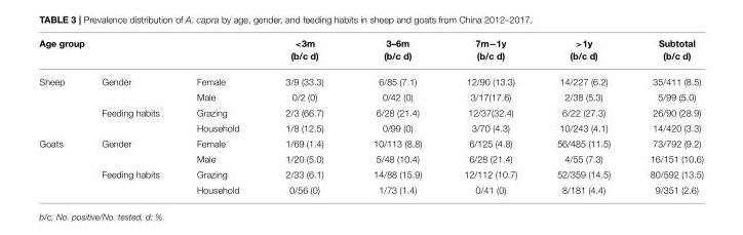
<table><thead><tr><td colspan="3">Age group</td><td rowspan="2">&lt;3m (b/c d) 3/9 (33.3)</td><td rowspan="2">3–6m (b/c d) 6/85 (7.1)</td><td rowspan="2">7m−1y (b/c d) 12/90 (13.3)</td><td rowspan="2">&gt;1y (b/c d) 14/227 (6.2)</td><td rowspan="2">Subtotal (b/c d) 35/411 (8.5)</td></tr><tr><td>Sheep</td><td>Gender</td><td>Female</td></tr></thead><tbody><tr><td></td><td></td><td>Male</td><td>0/2 (0)</td><td>0/42 (0)</td><td>3/17(17.6)</td><td>2/38 (5.3)</td><td>5/99 (5.0)</td></tr><tr><td></td><td>Feeding habits</td><td>Grazing</td><td>2/3 (66.7)</td><td>6/28 (21.4)</td><td>12/37(32.4)</td><td>6/22 (27.3)</td><td>26/90 (28.9)</td></tr><tr><td></td><td></td><td>Household</td><td>1/8 (12.5)</td><td>0/99 (0)</td><td>3/70 (4.3)</td><td>10/243 (4.1)</td><td>14/420 (3.3)</td></tr><tr><td rowspan="4">Goats</td><td>Gender</td><td>Female</td><td>1/69 (1.4)</td><td>10/113 (8.8)</td><td>6/125 (4.8)</td><td>56/485 (11.5)</td><td>73/792 (9.2)</td></tr><tr><td></td><td>Male</td><td>1/20 (5.0)</td><td>5/48 (10.4)</td><td>6/28 (21.4)</td><td>4/55 (7.3)</td><td>16/151 (10.6)</td></tr><tr><td>Feeding habits</td><td>Grazing</td><td>2/33 (6.1)</td><td>14/88 (15.9)</td><td>12/112 (10.7)</td><td>52/359 (14.5)</td><td>80/592 (13.5)</td></tr><tr><td></td><td>Household</td><td>0/56 (0)</td><td>1/73 (1.4)</td><td>0/41 (0)</td><td>8/181 (4.4)</td><td>9/351 (2.6)</td></tr></tbody></table>